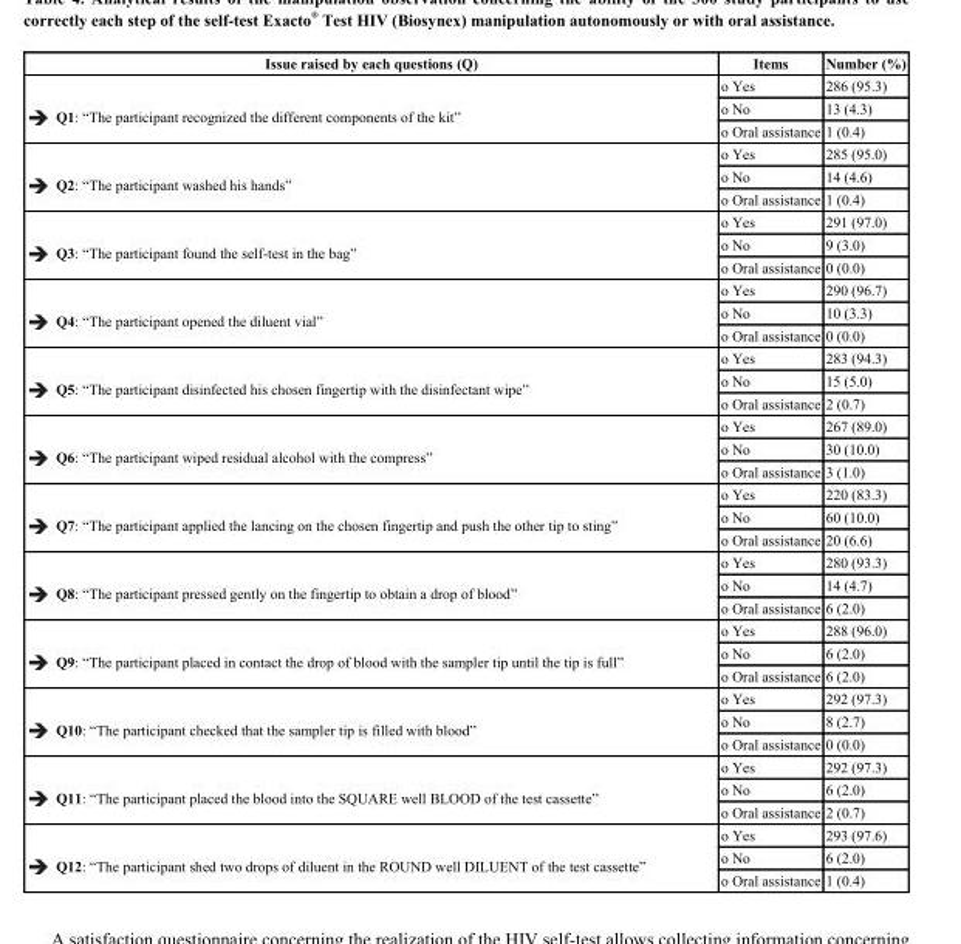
<table><thead><tr><td>Issue raised by each questions (Q)</td><td>Items</td><td>Number (%)</td></tr></thead><tbody><tr><td rowspan="3">Q1: “The participant recognized the different components of the kit”</td><td>o Yes</td><td>286 (95.3)</td></tr><tr><td>o No</td><td>13 (4.3)</td></tr><tr><td>o Oral assistance</td><td>1 (0.4)</td></tr><tr><td rowspan="3">Q2: “The participant washed his hands”</td><td>o Yes</td><td>285 (95.0)</td></tr><tr><td>o No</td><td>14 (4.6)</td></tr><tr><td>o Oral assistance</td><td>1 (0.4)</td></tr><tr><td rowspan="3">Q3: “The participant found the self-test in the bag”</td><td>o Yes</td><td>291 (97.0)</td></tr><tr><td>o No</td><td>9 (3.0)</td></tr><tr><td>o Oral assistance</td><td>0 (0.0)</td></tr><tr><td rowspan="3">Q4: “The participant opened the diluent vial”</td><td>o Yes</td><td>290 (96.7)</td></tr><tr><td>o No</td><td>10 (3.3)</td></tr><tr><td>o Oral assistance</td><td>0 (0.0)</td></tr><tr><td rowspan="3">Q5: “The participant disinfected his chosen fingertip with the disinfectant wipe”</td><td>o Yes</td><td>283 (94.3)</td></tr><tr><td>o No</td><td>15 (5.0)</td></tr><tr><td>o Oral assistance</td><td>2 (0.7)</td></tr><tr><td rowspan="3">Q6: “The participant wiped residual alcohol with the compress”</td><td>o Yes</td><td>267 (89.0)</td></tr><tr><td>o No</td><td>30 (10.0)</td></tr><tr><td>o Oral assistance</td><td>3 (1.0)</td></tr><tr><td rowspan="3">Q7: “The participant applied the lancing on the chosen fingertip and push the other tip to sting”</td><td>o Yes</td><td>220 (83.3)</td></tr><tr><td>o No</td><td>60 (10.0)</td></tr><tr><td>o Oral assistance</td><td>20 (6.6)</td></tr><tr><td rowspan="3">Q8: “The participant pressed gently on the fingertip to obtain a drop of blood”</td><td>o Yes</td><td>280 (93.3)</td></tr><tr><td>o No</td><td>14 (4.7)</td></tr><tr><td>o Oral assistance</td><td>6 (2.0)</td></tr><tr><td rowspan="3">Q9: “The participant placed in contact the drop of blood with the sampler tip until the tip is full”</td><td>o Yes</td><td>288 (96.0)</td></tr><tr><td>o No</td><td>6 (2.0)</td></tr><tr><td>o Oral assistance</td><td>6 (2.0)</td></tr><tr><td rowspan="3">Q10: “The participant checked that the sampler tip is filled with blood”</td><td>o Yes</td><td>292 (97.3)</td></tr><tr><td>o No</td><td>8 (2.7)</td></tr><tr><td>o Oral assistance</td><td>0 (0.0)</td></tr><tr><td rowspan="3">Q11: “The participant placed the blood into the SQUARE well BLOOD of the test cassette”</td><td>o Yes</td><td>292 (97.3)</td></tr><tr><td>o No</td><td>6 (2.0)</td></tr><tr><td>o Oral assistance</td><td>2 (0.7)</td></tr><tr><td rowspan="3">Q12: “The participant shed two drops of diluent in the ROUND well DILUENT of the test cassette”</td><td>o Yes</td><td>293 (97.6)</td></tr><tr><td>o No</td><td>6 (2.0)</td></tr><tr><td>o Oral assistance</td><td>1 (0.4)</td></tr></tbody></table>